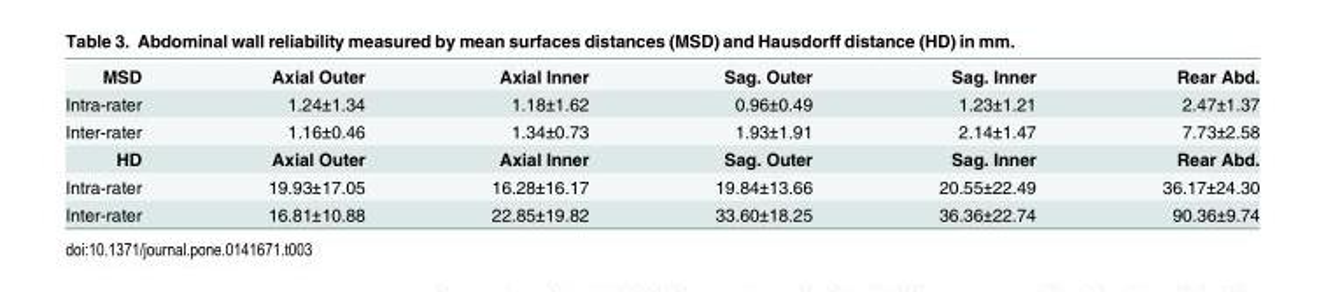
<table><tbody><tr><td>MSD</td><td>Axial Outer</td><td>Axial Inner</td><td>Sag. Outer</td><td>Sag. Inner</td><td>Rear Abd.</td></tr><tr><td>Intra-rater</td><td>1.24±1.34</td><td>1.18±1.62</td><td>0.96±0.49</td><td>1.23±1.21</td><td>2.47±1.37</td></tr><tr><td>Inter-rater</td><td>1.16±0.46</td><td>1.34±0.73</td><td>1.93±1.91</td><td>2.14±1.47</td><td>7.73±2.58</td></tr><tr><td>HD</td><td>Axial Outer</td><td>Axial Inner</td><td>Sag. Outer</td><td>Sag. Inner</td><td>Rear Abd.</td></tr><tr><td>Intra-rater</td><td>19.93±17.05</td><td>16.28±16.17</td><td>19.84±13.66</td><td>20.55±22.49</td><td>36.17±24.30</td></tr><tr><td>Inter-rater</td><td>16.81±10.88</td><td>22.85±19.82</td><td>33.60±18.25</td><td>36.36±22.74</td><td>90.36±9.74</td></tr></tbody></table>